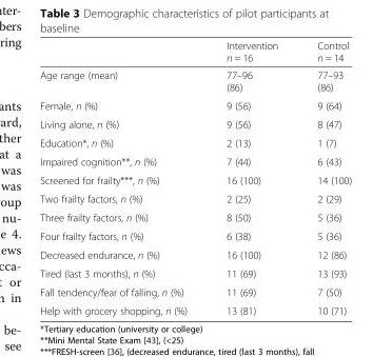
<table><thead><tr><td></td><td>Intervention n = 16</td><td>Control n = 14</td></tr></thead><tbody><tr><td>Age range (mean)</td><td>77–96 (86)</td><td>77–93 (86)</td></tr><tr><td>Female, n (%)</td><td>9 (56)</td><td>9 (64)</td></tr><tr><td>Living alone, n (%)</td><td>9 (56)</td><td>8 (47)</td></tr><tr><td>Education*, n (%)</td><td>2 (13)</td><td>1 (7)</td></tr><tr><td>Impaired cognition**, n (%)</td><td>7 (44)</td><td>6 (43)</td></tr><tr><td>Screened for frailty***, n (%)</td><td>16 (100)</td><td>14 (100)</td></tr><tr><td>Two frailty factors, n (%)</td><td>2 (25)</td><td>2 (29)</td></tr><tr><td>Three frailty factors, n (%)</td><td>8 (50)</td><td>5 (36)</td></tr><tr><td>Four frailty factors, n (%)</td><td>6 (38)</td><td>5 (36)</td></tr><tr><td>Decreased endurance, n (%)</td><td>16 (100)</td><td>12 (86)</td></tr><tr><td>Tired (last 3 months), n (%)</td><td>11 (69)</td><td>13 (93)</td></tr><tr><td>Fall tendency/fear of falling, n (%)</td><td>11 (69)</td><td>7 (50)</td></tr><tr><td>Help with grocery shopping, n (%)</td><td>13 (81)</td><td>10 (71)</td></tr></tbody></table>